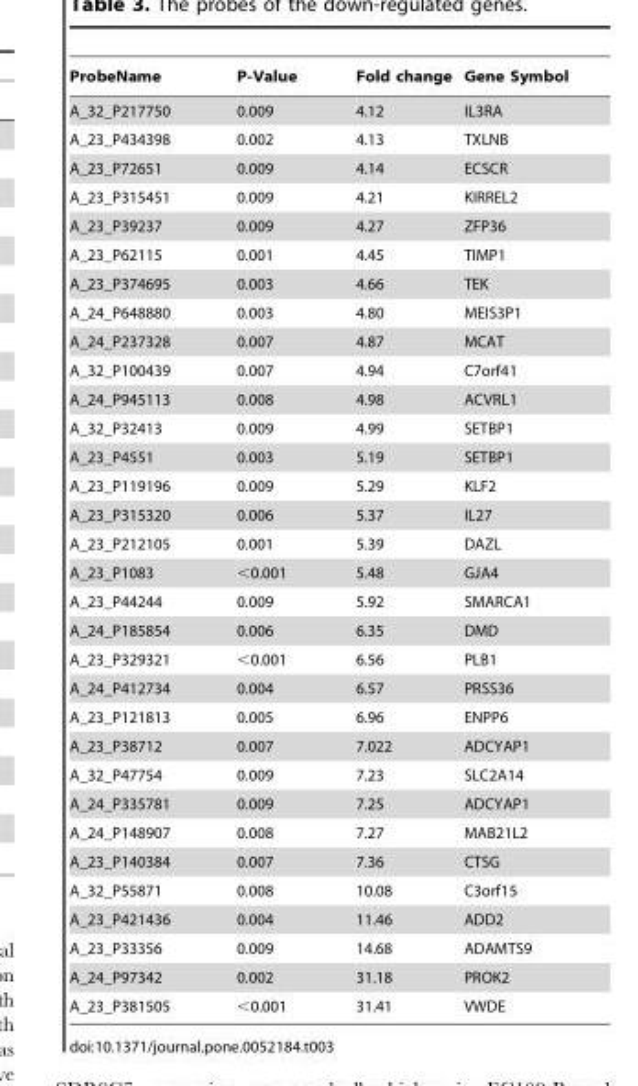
<table><thead><tr><td>ProbeName</td><td>P-Value</td><td>Fold change</td><td>Gene Symbol</td></tr></thead><tbody><tr><td>A_32_P217750</td><td>0.009</td><td>4.12</td><td>IL3RA</td></tr><tr><td>A_23_P434398</td><td>0.002</td><td>4.13</td><td>TXLNB</td></tr><tr><td>A_23_P72651</td><td>0.009</td><td>4.14</td><td>ECSCR</td></tr><tr><td>A_23_P315451</td><td>0.009</td><td>4.21</td><td>KIRREL2</td></tr><tr><td>A_23_P39237</td><td>0.009</td><td>4.27</td><td>ZFP36</td></tr><tr><td>A_23_P62115</td><td>0.001</td><td>4.45</td><td>TIMP1</td></tr><tr><td>A_23_P374695</td><td>0.003</td><td>4.66</td><td>TEK</td></tr><tr><td>A_24_P648880</td><td>0.003</td><td>4.80</td><td>MEIS3P1</td></tr><tr><td>A_24_P237328</td><td>0.007</td><td>4.87</td><td>MCAT</td></tr><tr><td>A_32_P100439</td><td>0.007</td><td>4.94</td><td>C7orf41</td></tr><tr><td>A_24_P945113</td><td>0.008</td><td>4.98</td><td>ACVRL1</td></tr><tr><td>A_32_P32413</td><td>0.009</td><td>4.99</td><td>SETBP1</td></tr><tr><td>A_23_P4551</td><td>0.003</td><td>5.19</td><td>SETBP1</td></tr><tr><td>A_23_P119196</td><td>0.009</td><td>5.29</td><td>KLF2</td></tr><tr><td>A_23_P315320</td><td>0.006</td><td>5.37</td><td>IL27</td></tr><tr><td>A_23_P212105</td><td>0.001</td><td>5.39</td><td>DAZL</td></tr><tr><td>A_23_P1083</td><td>&lt;0.001</td><td>5.48</td><td>GJA4</td></tr><tr><td>A_23_P44244</td><td>0.009</td><td>5.92</td><td>SMARCA1</td></tr><tr><td>A_24_P185854</td><td>0.006</td><td>6.35</td><td>DMD</td></tr><tr><td>A_23_P329321</td><td>&lt;0.001</td><td>6.56</td><td>PLB1</td></tr><tr><td>A_24_P412734</td><td>0.004</td><td>6.57</td><td>PRSS36</td></tr><tr><td>A_23_P121813</td><td>0.005</td><td>6.96</td><td>ENPP6</td></tr><tr><td>A_23_P38712</td><td>0.007</td><td>7.022</td><td>ADCYAP1</td></tr><tr><td>A_32_P47754</td><td>0.009</td><td>7.23</td><td>SLC2A14</td></tr><tr><td>A_24_P335781</td><td>0.009</td><td>7.25</td><td>ADCYAP1</td></tr><tr><td>A_24_P148907</td><td>0.008</td><td>7.27</td><td>MAB21L2</td></tr><tr><td>A_23_P140384</td><td>0.007</td><td>7.36</td><td>CTSG</td></tr><tr><td>A_32_P55871</td><td>0.008</td><td>10.08</td><td>C3orf15</td></tr><tr><td>A_23_P421436</td><td>0.004</td><td>11.46</td><td>ADD2</td></tr><tr><td>A_23_P33356</td><td>0.009</td><td>14.68</td><td>ADAMTS9</td></tr><tr><td>A_24_P97342</td><td>0.002</td><td>31.18</td><td>PROK2</td></tr><tr><td>A_23_P381505</td><td>&lt;0.001</td><td>31.41</td><td>VWDE</td></tr></tbody></table>